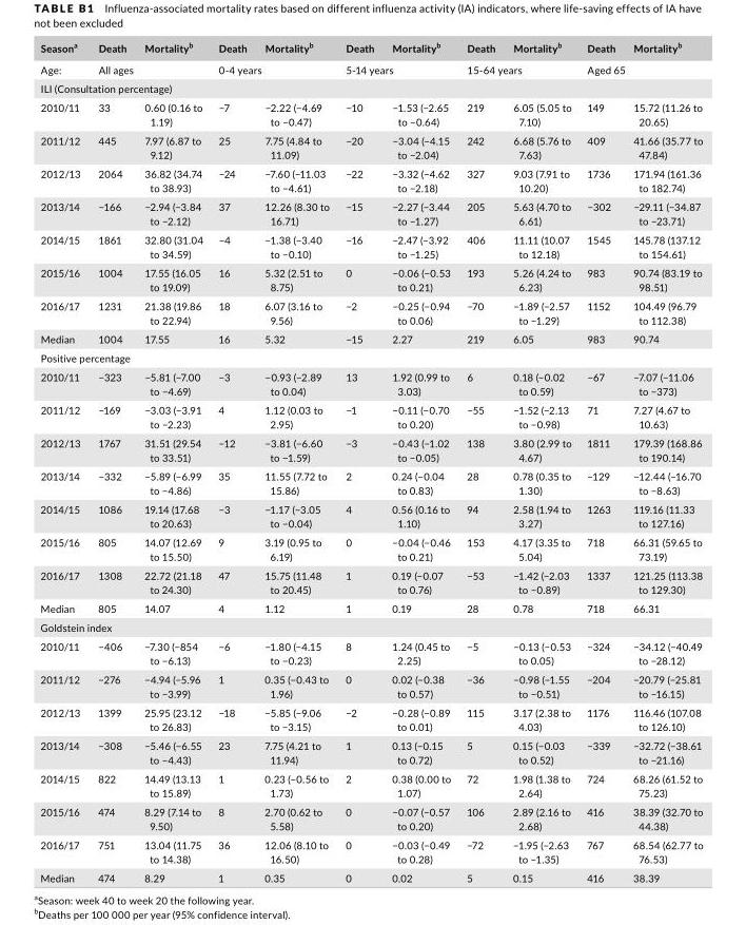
<table><thead><tr><td>Season<sup>a</sup></td><td>Death</td><td>Mortality<sup>b</sup></td><td>Death</td><td>Mortality<sup>b</sup></td><td>Death</td><td>Mortality<sup>b</sup></td><td>Death</td><td>Mortality<sup>b</sup></td><td>Death</td><td>Mortality<sup>b</sup></td></tr></thead><tbody><tr><td>Age:</td><td colspan="2">All ages</td><td colspan="2">0- 4 years</td><td colspan="2">5- 14 years</td><td colspan="2">15- 64 years</td><td colspan="2">Aged 65</td></tr><tr><td colspan="11">ILI (Consultation percentage)</td></tr><tr><td>2010/11</td><td>33</td><td>0.60 (0.16 to 1.19)</td><td>−7</td><td>−2.22 (−4.69 to −0.47)</td><td>−10</td><td>−1.53 (−2.65 to −0.64)</td><td>219</td><td>6.05 (5.05 to 7.10)</td><td>149</td><td>15.72 (11.26 to 20.65)</td></tr><tr><td>2011/12</td><td>445</td><td>7.97 (6.87 to 9.12)</td><td>25</td><td>7.75 (4.84 to 11.09)</td><td>−20</td><td>−3.04 (−4.15 to −2.04)</td><td>242</td><td>6.68 (5.76 to 7.63)</td><td>409</td><td>41.66 (35.77 to 47.84)</td></tr><tr><td>2012/13</td><td>2064</td><td>36.82 (34.74 to 38.93)</td><td>−24</td><td>−7.60 (−11.03 to −4.61)</td><td>−22</td><td>−3.32 (−4.62 to −2.18)</td><td>327</td><td>9.03 (7.91 to 10.20)</td><td>1736</td><td>171.94 (161.36 to 182.74)</td></tr><tr><td>2013/14</td><td>−166</td><td>−2.94 (−3.84 to −2.12)</td><td>37</td><td>12.26 (8.30 to 16.71)</td><td>−15</td><td>−2.27 (−3.44 to −1.27)</td><td>205</td><td>5.63 (4.70 to 6.61)</td><td>−302</td><td>−29.11 (−34.87 to −23.71)</td></tr><tr><td>2014/15</td><td>1861</td><td>32.80 (31.04 to 34.59)</td><td>−4</td><td>−1.38 (−3.40 to −0.10)</td><td>−16</td><td>−2.47 (−3.92 to −1.25)</td><td>406</td><td>11.11 (10.07 to 12.18)</td><td>1545</td><td>145.78 (137.12 to 154.61)</td></tr><tr><td>2015/16</td><td>1004</td><td>17.55 (16.05 to 19.09)</td><td>16</td><td>5.32 (2.51 to 8.75)</td><td>0</td><td>−0.06 (−0.53 to 0.21)</td><td>193</td><td>5.26 (4.24 to 6.23)</td><td>983</td><td>90.74 (83.19 to 98.51)</td></tr><tr><td>2016/17</td><td>1231</td><td>21.38 (19.86 to 22.94)</td><td>18</td><td>6.07 (3.16 to 9.56)</td><td>−2</td><td>−0.25 (−0.94 to 0.06)</td><td>−70</td><td>−1.89 (−2.57 to −1.29)</td><td>1152</td><td>104.49 (96.79 to 112.38)</td></tr><tr><td>Median</td><td>1004</td><td>17.55</td><td>16</td><td>5.32</td><td>−15</td><td>2.27</td><td>219</td><td>6.05</td><td>983</td><td>90.74</td></tr><tr><td colspan="11">Positive percentage</td></tr><tr><td>2010/11</td><td>−323</td><td>−5.81 (−7.00 to −4.69)</td><td>−3</td><td>−0.93 (−2.89 to 0.04)</td><td>13</td><td>1.92 (0.99 to 3.03)</td><td>6</td><td>0.18 (−0.02 to 0.59)</td><td>−67</td><td>−7.07 (−11.06 to −373)</td></tr><tr><td>2011/12</td><td>−169</td><td>−3.03 (−3.91 to −2.23)</td><td>4</td><td>1.12 (0.03 to 2.95)</td><td>−1</td><td>−0.11 (−0.70 to 0.20)</td><td>−55</td><td>−1.52 (−2.13 to −0.98)</td><td>71</td><td>7.27 (4.67 to 10.63)</td></tr><tr><td>2012/13</td><td>1767</td><td>31.51 (29.54 to 33.51)</td><td>−12</td><td>−3.81 (−6.60 to −1.59)</td><td>−3</td><td>−0.43 (−1.02 to −0.05)</td><td>138</td><td>3.80 (2.99 to 4.67)</td><td>1811</td><td>179.39 (168.86 to 190.14)</td></tr><tr><td>2013/14</td><td>−332</td><td>−5.89 (−6.99 to −4.86)</td><td>35</td><td>11.55 (7.72 to 15.86)</td><td>2</td><td>0.24 (−0.04 to 0.83)</td><td>28</td><td>0.78 (0.35 to 1.30)</td><td>−129</td><td>−12.44 (−16.70 to −8.63)</td></tr><tr><td>2014/15</td><td>1086</td><td>19.14 (17.68 to 20.63)</td><td>−3</td><td>−1.17 (−3.05 to −0.04)</td><td>4</td><td>0.56 (0.16 to 1.10)</td><td>94</td><td>2.58 (1.94 to 3.27)</td><td>1263</td><td>119.16 (11.33 to 127.16)</td></tr><tr><td>2015/16</td><td>805</td><td>14.07 (12.69 to 15.50)</td><td>9</td><td>3.19 (0.95 to 6.19)</td><td>0</td><td>−0.04 (−0.46 to 0.21)</td><td>153</td><td>4.17 (3.35 to 5.04)</td><td>718</td><td>66.31 (59.65 to 73.19)</td></tr><tr><td>2016/17</td><td>1308</td><td>22.72 (21.18 to 24.30)</td><td>47</td><td>15.75 (11.48 to 20.45)</td><td>1</td><td>0.19 (−0.07 to 0.76)</td><td>−53</td><td>−1.42 (−2.03 to −0.89)</td><td>1337</td><td>121.25 (113.38 to 129.30)</td></tr><tr><td>Median</td><td>805</td><td>14.07</td><td>4</td><td>1.12</td><td>1</td><td>0.19</td><td>28</td><td>0.78</td><td>718</td><td>66.31</td></tr><tr><td colspan="11">Goldstein index</td></tr><tr><td>2010/11</td><td>−406</td><td>−7.30 (−854 to −6.13)</td><td>−6</td><td>−1.80 (−4.15 to −0.23)</td><td>8</td><td>1.24 (0.45 to 2.25)</td><td>−5</td><td>−0.13 (−0.53 to 0.05)</td><td>−324</td><td>−34.12 (−40.49 to −28.12)</td></tr><tr><td>2011/12</td><td>−276</td><td>−4.94 (−5.96 to −3.99)</td><td>1</td><td>0.35 (−0.43 to 1.96)</td><td>0</td><td>0.02 (−0.38 to 0.57)</td><td>−36</td><td>−0.98 (−1.55 to −0.51)</td><td>−204</td><td>−20.79 (−25.81 to −16.15)</td></tr><tr><td>2012/13</td><td>1399</td><td>25.95 (23.12 to 26.83)</td><td>−18</td><td>−5.85 (−9.06 to −3.15)</td><td>−2</td><td>−0.28 (−0.89 to 0.01)</td><td>115</td><td>3.17 (2.38 to 4.03)</td><td>1176</td><td>116.46 (107.08 to 126.10)</td></tr><tr><td>2013/14</td><td>−308</td><td>−5.46 (−6.55 to −4.43)</td><td>23</td><td>7.75 (4.21 to 11.94)</td><td>1</td><td>0.13 (−0.15 to 0.72)</td><td>5</td><td>0.15 (−0.03 to 0.52)</td><td>−339</td><td>−32.72 (−38.61 to −21.16)</td></tr><tr><td>2014/15</td><td>822</td><td>14.49 (13.13 to 15.89)</td><td>1</td><td>0.23 (−0.56 to 1.73)</td><td>2</td><td>0.38 (0.00 to 1.07)</td><td>72</td><td>1.98 (1.38 to 2.64)</td><td>724</td><td>68.26 (61.52 to 75.23)</td></tr><tr><td>2015/16</td><td>474</td><td>8.29 (7.14 to 9.50)</td><td>8</td><td>2.70 (0.62 to 5.58)</td><td>0</td><td>−0.07 (−0.57 to 0.20)</td><td>106</td><td>2.89 (2.16 to 2.68)</td><td>416</td><td>38.39 (32.70 to 44.38)</td></tr><tr><td>2016/17</td><td>751</td><td>13.04 (11.75 to 14.38)</td><td>36</td><td>12.06 (8.10 to 16.50)</td><td>0</td><td>−0.03 (−0.49 to 0.28)</td><td>−72</td><td>−1.95 (−2.63 to −1.35)</td><td>767</td><td>68.54 (62.77 to 76.53)</td></tr><tr><td>Median</td><td>474</td><td>8.29</td><td>1</td><td>0.35</td><td>0</td><td>0.02</td><td>5</td><td>0.15</td><td>416</td><td>38.39</td></tr></tbody></table>